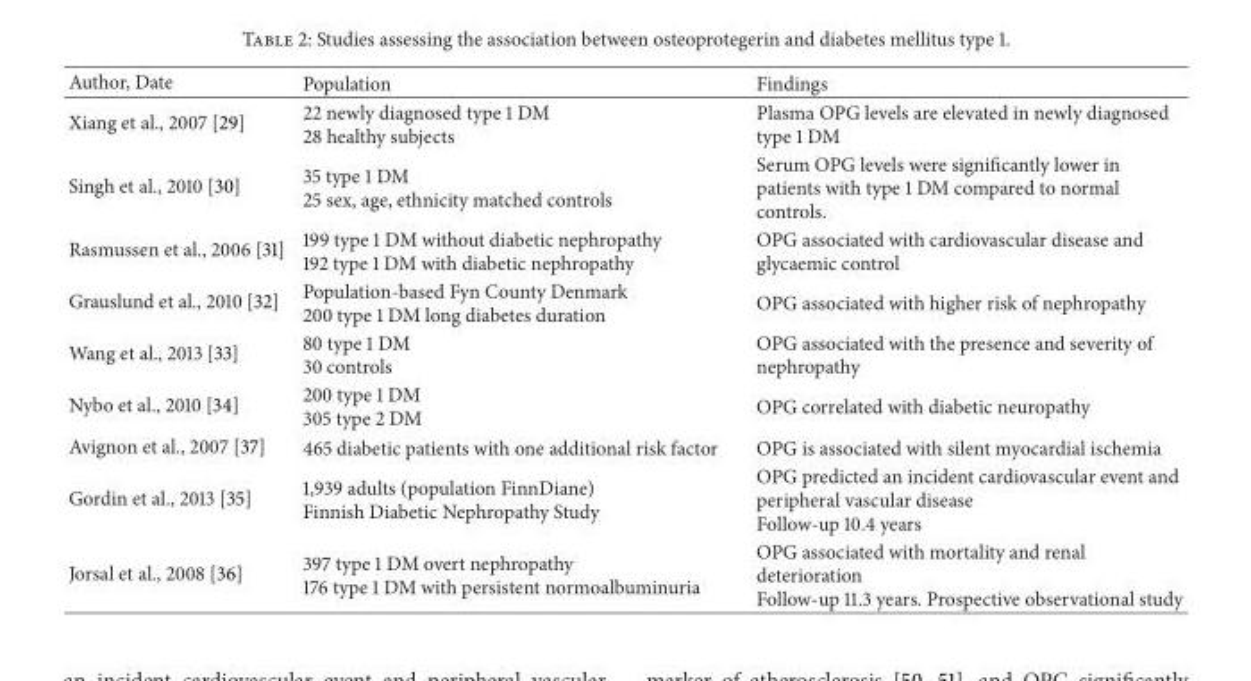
<table><thead><tr><td>Author, Date</td><td>Population</td><td>Findings</td></tr></thead><tbody><tr><td>Xiang et al., 2007 [29]</td><td>22 newly diagnosed type 1 DM 28 healthy subjects</td><td>Plasma OPG levels are elevated in newly diagnosed type 1 DM</td></tr><tr><td>Singh et al., 2010 [30]</td><td>35 type 1 DM 25 sex, age, ethnicity matched controls</td><td>Serum OPG levels were significantly lower in patients with type 1 DM compared to normal controls.</td></tr><tr><td>Rasmussen et al., 2006 [31]</td><td>199 type 1 DM without diabetic nephropathy 192 type 1 DM with diabetic nephropathy</td><td>OPG associated with cardiovascular disease and glycaemic control</td></tr><tr><td>Grauslund et al., 2010 [32]</td><td>Population-based Fyn County Denmark 200 type 1 DM long diabetes duration</td><td>OPG associated with higher risk of nephropathy</td></tr><tr><td>Wang et al., 2013 [33]</td><td>80 type 1 DM 30 controls</td><td>OPG associated with the presence and severity of nephropathy</td></tr><tr><td>Nybo et al., 2010 [34]</td><td>200 type 1 DM 305 type 2 DM</td><td>OPG correlated with diabetic neuropathy</td></tr><tr><td>Avignon et al., 2007 [37]</td><td>465 diabetic patients with one additional risk factor</td><td>OPG is associated with silent myocardial ischemia</td></tr><tr><td>Gordin et al., 2013 [35]</td><td>1,939 adults (population FinnDiane) Finnish Diabetic Nephropathy Study</td><td>OPG predicted an incident cardiovascular event and peripheral vascular disease Follow-up 10.4 years</td></tr><tr><td>Jorsal et al., 2008 [36]</td><td>397 type 1 DM overt nephropathy 176 type 1 DM with persistent normoalbuminuria</td><td>OPG associated with mortality and renal deterioration Follow-up 11.3 years. Prospective observational study</td></tr></tbody></table>